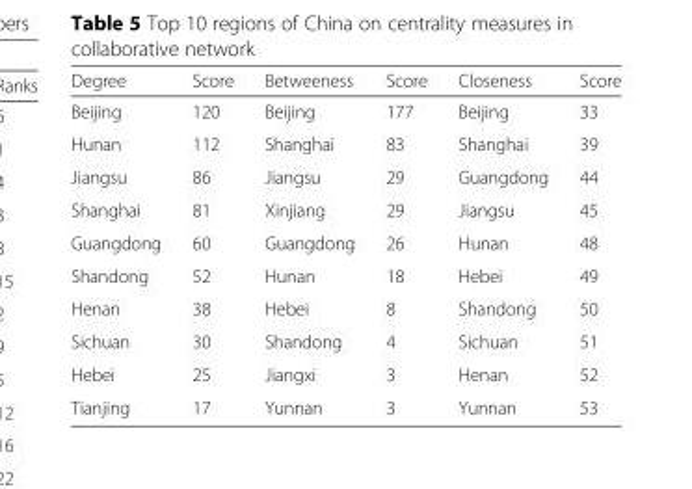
<table><thead><tr><td>Degree</td><td>Score</td><td>Betweeness</td><td>Score</td><td>Closeness</td><td>Score</td></tr></thead><tbody><tr><td>Beijing</td><td>120</td><td>Beijing</td><td>177</td><td>Beijing</td><td>33</td></tr><tr><td>Hunan</td><td>112</td><td>Shanghai</td><td>83</td><td>Shanghai</td><td>39</td></tr><tr><td>Jiangsu</td><td>86</td><td>Jiangsu</td><td>29</td><td>Guangdong</td><td>44</td></tr><tr><td>Shanghai</td><td>81</td><td>Xinjiang</td><td>29</td><td>Jiangsu</td><td>45</td></tr><tr><td>Guangdong</td><td>60</td><td>Guangdong</td><td>26</td><td>Hunan</td><td>48</td></tr><tr><td>Shandong</td><td>52</td><td>Hunan</td><td>18</td><td>Hebei</td><td>49</td></tr><tr><td>Henan</td><td>38</td><td>Hebei</td><td>8</td><td>Shandong</td><td>50</td></tr><tr><td>Sichuan</td><td>30</td><td>Shandong</td><td>4</td><td>Sichuan</td><td>51</td></tr><tr><td>Hebei</td><td>25</td><td>Jiangxi</td><td>3</td><td>Henan</td><td>52</td></tr><tr><td>Tianjing</td><td>17</td><td>Yunnan</td><td>3</td><td>Yunnan</td><td>53</td></tr></tbody></table>